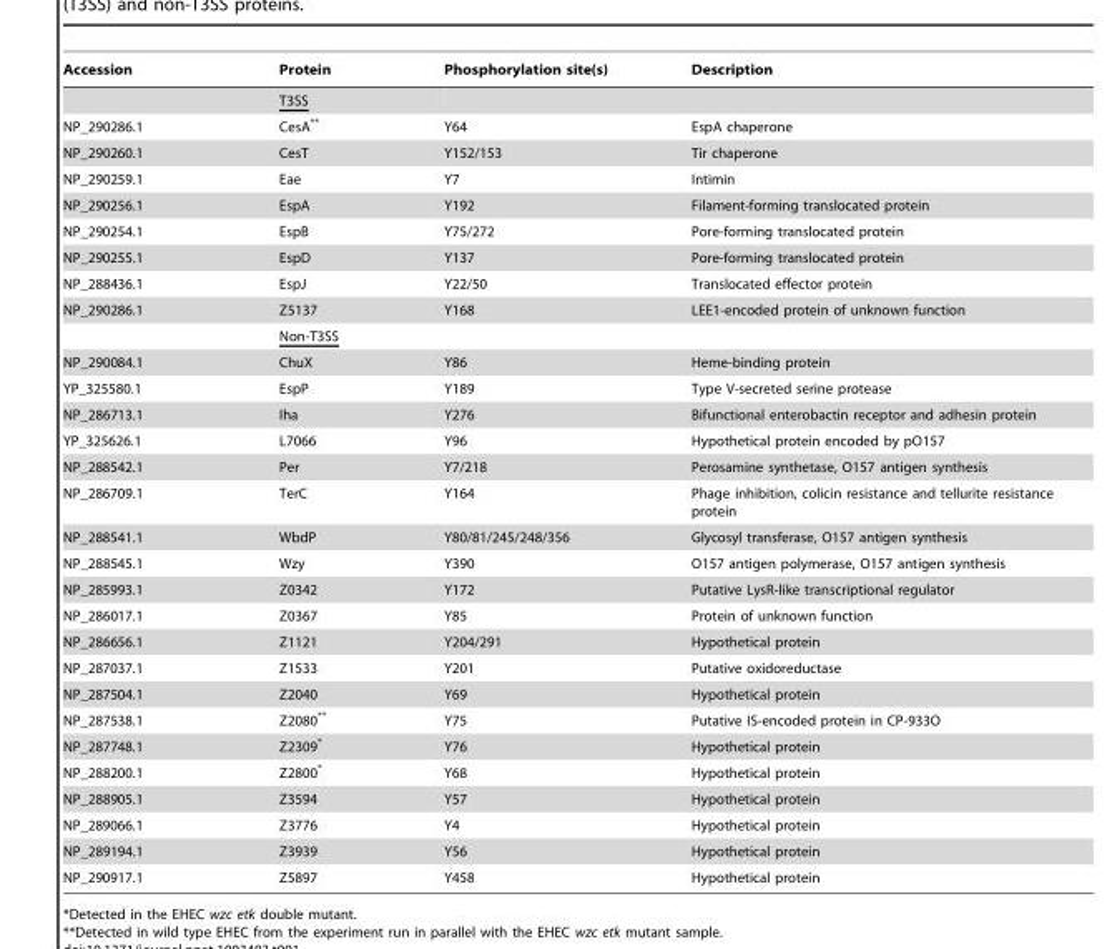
<table><thead><tr><td>Accession</td><td>Protein</td><td>Phosphorylation site(s)</td><td>Description</td></tr></thead><tbody><tr><td></td><td>T3SS</td><td></td><td></td></tr><tr><td>NP_290286.1</td><td>CesA**</td><td>Y64</td><td>EspA chaperone</td></tr><tr><td>NP_290260.1</td><td>CesT</td><td>Y152/153</td><td>Tir chaperone</td></tr><tr><td>NP_290259.1</td><td>Eae</td><td>Y7</td><td>Intimin</td></tr><tr><td>NP_290256.1</td><td>EspA</td><td>Y192</td><td>Filament-forming translocated protein</td></tr><tr><td>NP_290254.1</td><td>EspB</td><td>Y75/272</td><td>Pore-forming translocated protein</td></tr><tr><td>NP_290255.1</td><td>EspD</td><td>Y137</td><td>Pore-forming translocated protein</td></tr><tr><td>NP_288436.1</td><td>EspJ</td><td>Y22/50</td><td>Translocated effector protein</td></tr><tr><td rowspan="2">NP_290286.1</td><td>Z5137</td><td>Y168</td><td>LEE1-encoded protein of unknown function</td></tr><tr><td>Non-T3SS</td><td></td><td></td></tr><tr><td>NP_290084.1</td><td>ChuX</td><td>Y86</td><td>Heme-binding protein</td></tr><tr><td>YP_325580.1</td><td>EspP</td><td>Y189</td><td>Type V-secreted serine protease</td></tr><tr><td>NP_286713.1</td><td>Iha</td><td>Y276</td><td>Bifunctional enterobactin receptor and adhesin protein</td></tr><tr><td>YP_325626.1</td><td>L7066</td><td>Y96</td><td>Hypothetical protein encoded by pO157</td></tr><tr><td>NP_288542.1</td><td>Per</td><td>Y7/218</td><td>Perosamine synthetase, O157 antigen synthesis</td></tr><tr><td>NP_286709.1</td><td>TerC</td><td>Y164</td><td>Phage inhibition, colicin resistance and tellurite resistance protein</td></tr><tr><td>NP_288541.1</td><td>WbdP</td><td>Y80/81/245/248/356</td><td>Glycosyl transferase, O157 antigen synthesis</td></tr><tr><td>NP_288545.1</td><td>Wzy</td><td>Y390</td><td>O157 antigen polymerase, O157 antigen synthesis</td></tr><tr><td>NP_285993.1</td><td>Z0342</td><td>Y172</td><td>Putative LysR-like transcriptional regulator</td></tr><tr><td>NP_286017.1</td><td>Z0367</td><td>Y85</td><td>Protein of unknown function</td></tr><tr><td>NP_286656.1</td><td>Z1121</td><td>Y204/291</td><td>Hypothetical protein</td></tr><tr><td>NP_287037.1</td><td>Z1533</td><td>Y201</td><td>Putative oxidoreductase</td></tr><tr><td>NP_287504.1</td><td>Z2040</td><td>Y69</td><td>Hypothetical protein</td></tr><tr><td>NP_287538.1</td><td>Z2080**</td><td>Y75</td><td>Putative IS-encoded protein in CP-933O</td></tr><tr><td>NP_287748.1</td><td>Z2309*</td><td>Y76</td><td>Hypothetical protein</td></tr><tr><td>NP_288200.1</td><td>Z2800*</td><td>Y68</td><td>Hypothetical protein</td></tr><tr><td>NP_288905.1</td><td>Z3594</td><td>Y57</td><td>Hypothetical protein</td></tr><tr><td>NP_289066.1</td><td>Z3776</td><td>Y4</td><td>Hypothetical protein</td></tr><tr><td>NP_289194.1</td><td>Z3939</td><td>Y56</td><td>Hypothetical protein</td></tr><tr><td>NP_290917.1</td><td>Z5897</td><td>Y458</td><td>Hypothetical protein</td></tr></tbody></table>